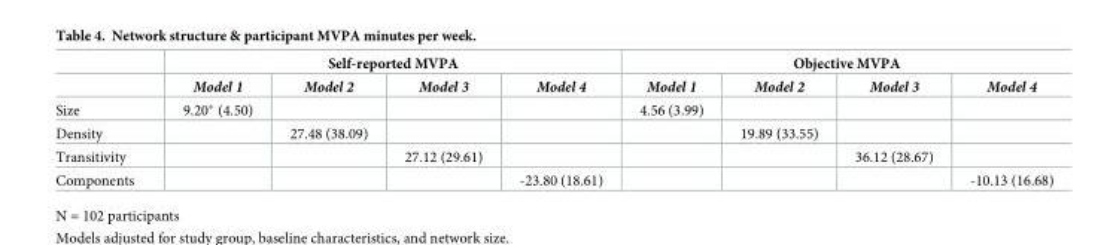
<table><thead><tr><td rowspan="2"></td><td colspan="4">Self-reported MVPA</td><td colspan="4">Objective MVPA</td></tr><tr><td>Model 1</td><td>Model 2</td><td>Model 3</td><td>Model 4</td><td>Model 1</td><td>Model 2</td><td>Model 3</td><td>Model 4</td></tr></thead><tbody><tr><td>Size</td><td>9.20* (4.50)</td><td></td><td></td><td></td><td>4.56 (3.99)</td><td></td><td></td><td></td></tr><tr><td>Density</td><td></td><td>27.48 (38.09)</td><td></td><td></td><td></td><td>19.89 (33.55)</td><td></td><td></td></tr><tr><td>Transitivity</td><td></td><td></td><td>27.12 (29.61)</td><td></td><td></td><td></td><td>36.12 (28.67)</td><td></td></tr><tr><td>Components</td><td></td><td></td><td></td><td>-23.80 (18.61)</td><td></td><td></td><td></td><td>-10.13 (16.68)</td></tr></tbody></table>